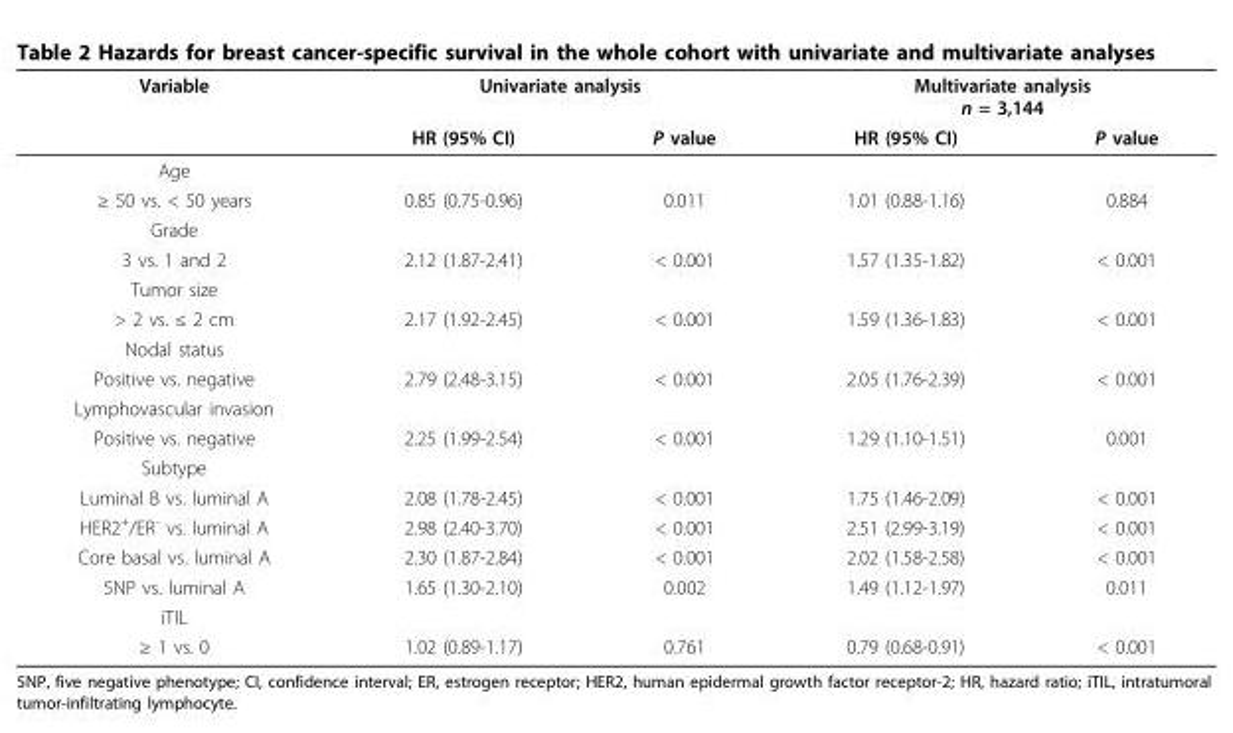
<table><thead><tr><td rowspan="2">Variable</td><td colspan="2">Univariate analysis</td><td colspan="2">Multivariate analysis n = 3,144</td></tr><tr><td>HR (95% CI)</td><td>P value</td><td>HR (95% CI)</td><td>P value</td></tr></thead><tbody><tr><td colspan="5">Age</td></tr><tr><td>≥ 50 vs. &lt; 50 years</td><td>0.85 (0.75-0.96)</td><td>0.011</td><td>1.01 (0.88-1.16)</td><td>0.884</td></tr><tr><td colspan="5">Grade</td></tr><tr><td>3 vs. 1 and 2</td><td>2.12 (1.87-2.41)</td><td>&lt; 0.001</td><td>1.57 (1.35-1.82)</td><td>&lt; 0.001</td></tr><tr><td colspan="5">Tumor size</td></tr><tr><td>&gt; 2 vs. ≤ 2 cm</td><td>2.17 (1.92-2.45)</td><td>&lt; 0.001</td><td>1.59 (1.36-1.83)</td><td>&lt; 0.001</td></tr><tr><td colspan="5">Nodal status</td></tr><tr><td>Positive vs. negative</td><td>2.79 (2.48-3.15)</td><td>&lt; 0.001</td><td>2.05 (1.76-2.39)</td><td>&lt; 0.001</td></tr><tr><td colspan="5">Lymphovascular invasion</td></tr><tr><td>Positive vs. negative</td><td>2.25 (1.99-2.54)</td><td>&lt; 0.001</td><td>1.29 (1.10-1.51)</td><td>0.001</td></tr><tr><td colspan="5">Subtype</td></tr><tr><td>Luminal B vs. luminal A</td><td>2.08 (1.78-2.45)</td><td>&lt; 0.001</td><td>1.75 (1.46-2.09)</td><td>&lt; 0.001</td></tr><tr><td>HER2<sup>+</sup>/ER<sup>-</sup> vs. luminal A</td><td>2.98 (2.40-3.70)</td><td>&lt; 0.001</td><td>2.51 (2.99-3.19)</td><td>&lt; 0.001</td></tr><tr><td>Core basal vs. luminal A</td><td>2.30 (1.87-2.84)</td><td>&lt; 0.001</td><td>2.02 (1.58-2.58)</td><td>&lt; 0.001</td></tr><tr><td>5NP vs. luminal A</td><td>1.65 (1.30-2.10)</td><td>0.002</td><td>1.49 (1.12-1.97)</td><td>0.011</td></tr><tr><td colspan="5">iTIL</td></tr><tr><td>≥ 1 vs. 0</td><td>1.02 (0.89-1.17)</td><td>0.761</td><td>0.79 (0.68-0.91)</td><td>&lt; 0.001</td></tr></tbody></table>